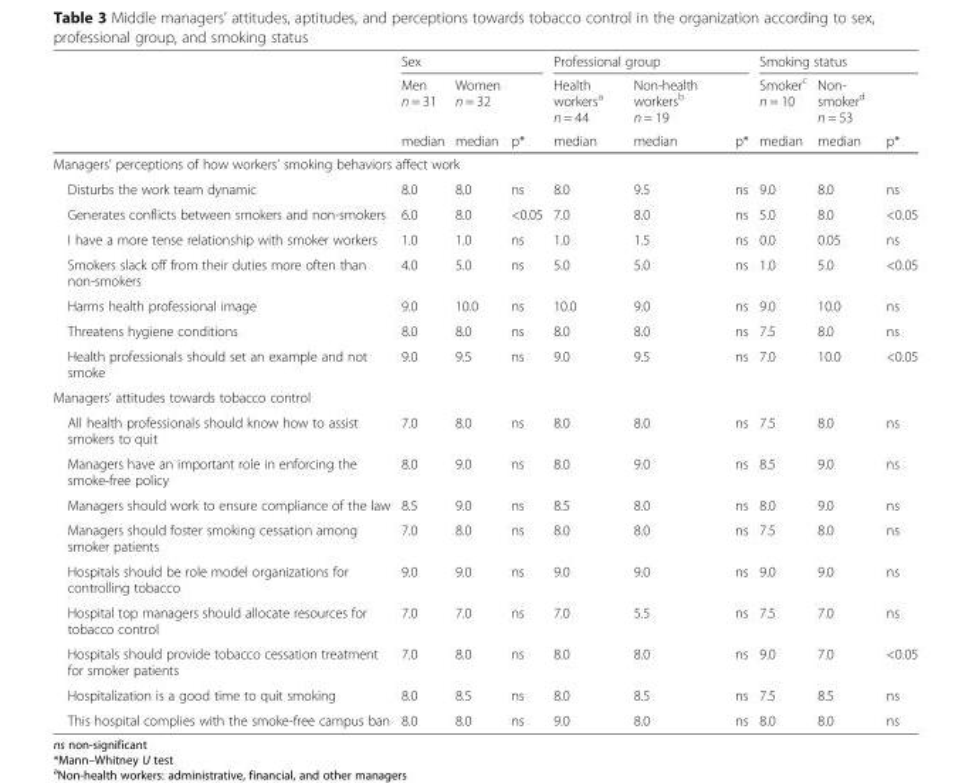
<table><thead><tr><td rowspan="3"></td><td colspan="3">Sex</td><td colspan="3">Professional group</td><td colspan="3">Smoking status</td></tr><tr><td rowspan="2">Men n = 31 median</td><td rowspan="2">Women n = 32 median</td><td rowspan="2">p*</td><td rowspan="2">Health workers<sup>a</sup> n = 44 median</td><td rowspan="2">Non-health workers<sup>b</sup> n = 19 median</td><td rowspan="2">p*</td><td rowspan="2">Smoker<sup>c</sup> n = 10 median</td><td rowspan="2">Non- smoker<sup>d</sup> n = 53 median</td><td rowspan="2">p*</td></tr><tr></tr></thead><tbody><tr><td colspan="10">Managers’ perceptions of how workers’ smoking behaviors affect work</td></tr><tr><td>Disturbs the work team dynamic</td><td>8.0</td><td>8.0</td><td>ns</td><td>8.0</td><td>9.5</td><td>ns</td><td>9.0</td><td>8.0</td><td>ns</td></tr><tr><td>Generates conflicts between smokers and non-smokers</td><td>6.0</td><td>8.0</td><td>&lt;0.05</td><td>7.0</td><td>8.0</td><td>ns</td><td>5.0</td><td>8.0</td><td>&lt;0.05</td></tr><tr><td>I have a more tense relationship with smoker workers</td><td>1.0</td><td>1.0</td><td>ns</td><td>1.0</td><td>1.5</td><td>ns</td><td>0.0</td><td>0.05</td><td>ns</td></tr><tr><td>Smokers slack off from their duties more often than non-smokers</td><td>4.0</td><td>5.0</td><td>ns</td><td>5.0</td><td>5.0</td><td>ns</td><td>1.0</td><td>5.0</td><td>&lt;0.05</td></tr><tr><td>Harms health professional image</td><td>9.0</td><td>10.0</td><td>ns</td><td>10.0</td><td>9.0</td><td>ns</td><td>9.0</td><td>10.0</td><td>ns</td></tr><tr><td>Threatens hygiene conditions</td><td>8.0</td><td>8.0</td><td>ns</td><td>8.0</td><td>8.0</td><td>ns</td><td>7.5</td><td>8.0</td><td>ns</td></tr><tr><td>Health professionals should set an example and not smoke</td><td>9.0</td><td>9.5</td><td>ns</td><td>9.0</td><td>9.5</td><td>ns</td><td>7.0</td><td>10.0</td><td>&lt;0.05</td></tr><tr><td colspan="10">Managers’ attitudes towards tobacco control</td></tr><tr><td>All health professionals should know how to assist smokers to quit</td><td>7.0</td><td>8.0</td><td>ns</td><td>8.0</td><td>8.0</td><td>ns</td><td>7.5</td><td>8.0</td><td>ns</td></tr><tr><td>Managers have an important role in enforcing the smoke-free policy</td><td>8.0</td><td>9.0</td><td>ns</td><td>8.0</td><td>9.0</td><td>ns</td><td>8.5</td><td>9.0</td><td>ns</td></tr><tr><td>Managers should work to ensure compliance of the law</td><td>8.5</td><td>9.0</td><td>ns</td><td>8.5</td><td>8.0</td><td>ns</td><td>8.0</td><td>9.0</td><td>ns</td></tr><tr><td>Managers should foster smoking cessation among smoker patients</td><td>7.0</td><td>8.0</td><td>ns</td><td>8.0</td><td>8.0</td><td>ns</td><td>7.5</td><td>8.0</td><td>ns</td></tr><tr><td>Hospitals should be role model organizations for controlling tobacco</td><td>9.0</td><td>9.0</td><td>ns</td><td>9.0</td><td>9.0</td><td>ns</td><td>9.0</td><td>9.0</td><td>ns</td></tr><tr><td>Hospital top managers should allocate resources for tobacco control</td><td>7.0</td><td>7.0</td><td>ns</td><td>7.0</td><td>5.5</td><td>ns</td><td>7.5</td><td>7.0</td><td>ns</td></tr><tr><td>Hospitals should provide tobacco cessation treatment for smoker patients</td><td>7.0</td><td>8.0</td><td>ns</td><td>8.0</td><td>8.0</td><td>ns</td><td>9.0</td><td>7.0</td><td>&lt;0.05</td></tr><tr><td>Hospitalization is a good time to quit smoking</td><td>8.0</td><td>8.5</td><td>ns</td><td>8.0</td><td>8.5</td><td>ns</td><td>7.5</td><td>8.5</td><td>ns</td></tr><tr><td>This hospital complies with the smoke-free campus ban</td><td>8.0</td><td>8.0</td><td>ns</td><td>9.0</td><td>8.0</td><td>ns</td><td>8.0</td><td>8.0</td><td>ns</td></tr></tbody></table>